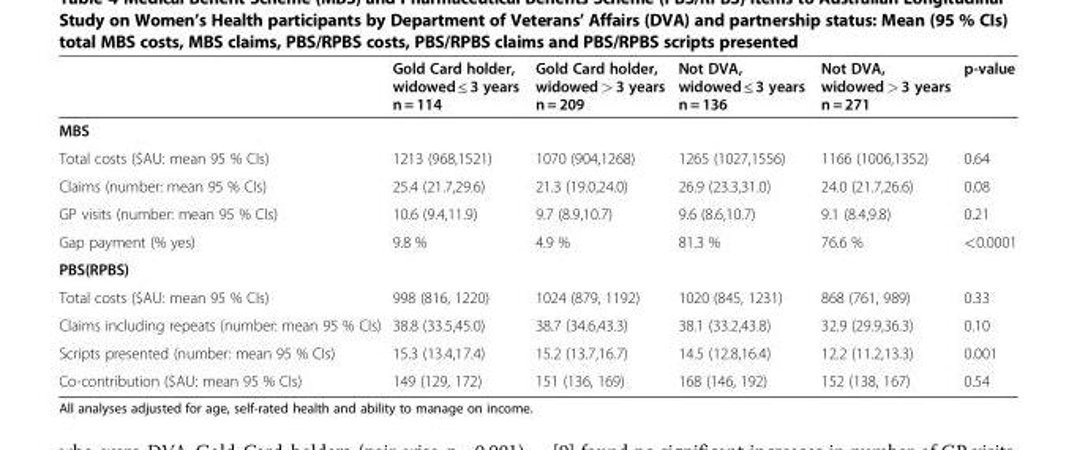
<table><thead><tr><td></td><td>Gold Card holder, widowed ≤ 3 years n = 114</td><td>Gold Card holder, widowed &gt; 3 years n = 209</td><td>Not DVA, widowed ≤ 3 years n = 136</td><td>Not DVA, widowed &gt; 3 years n = 271</td><td>p-value</td></tr></thead><tbody><tr><td colspan="6">MBS</td></tr><tr><td>Total costs ($AU: mean 95 % CIs)</td><td>1213 (968,1521)</td><td>1070 (904,1268)</td><td>1265 (1027,1556)</td><td>1166 (1006,1352)</td><td>0.64</td></tr><tr><td>Claims (number: mean 95 % CIs)</td><td>25.4 (21.7,29.6)</td><td>21.3 (19.0,24.0)</td><td>26.9 (23.3,31.0)</td><td>24.0 (21.7,26.6)</td><td>0.08</td></tr><tr><td>GP visits (number: mean 95 % CIs)</td><td>10.6 (9.4,11.9)</td><td>9.7 (8.9,10.7)</td><td>9.6 (8.6,10.7)</td><td>9.1 (8.4,9.8)</td><td>0.21</td></tr><tr><td>Gap payment (% yes)</td><td>9.8 %</td><td>4.9 %</td><td>81.3 %</td><td>76.6 %</td><td>&lt;0.0001</td></tr><tr><td colspan="6">PBS(RPBS)</td></tr><tr><td>Total costs ($AU: mean 95 % CIs)</td><td>998 (816, 1220)</td><td>1024 (879, 1192)</td><td>1020 (845, 1231)</td><td>868 (761, 989)</td><td>0.33</td></tr><tr><td>Claims including repeats (number: mean 95 % CIs)</td><td>38.8 (33.5,45.0)</td><td>38.7 (34.6,43.3)</td><td>38.1 (33.2,43.8)</td><td>32.9 (29.9,36.3)</td><td>0.10</td></tr><tr><td>Scripts presented (number: mean 95 % CIs)</td><td>15.3 (13.4,17.4)</td><td>15.2 (13.7,16.7)</td><td>14.5 (12.8,16.4)</td><td>12.2 (11.2,13.3)</td><td>0.001</td></tr><tr><td>Co-contribution ($AU: mean 95 % CIs)</td><td>149 (129, 172)</td><td>151 (136, 169)</td><td>168 (146, 192)</td><td>152 (138, 167)</td><td>0.54</td></tr></tbody></table>